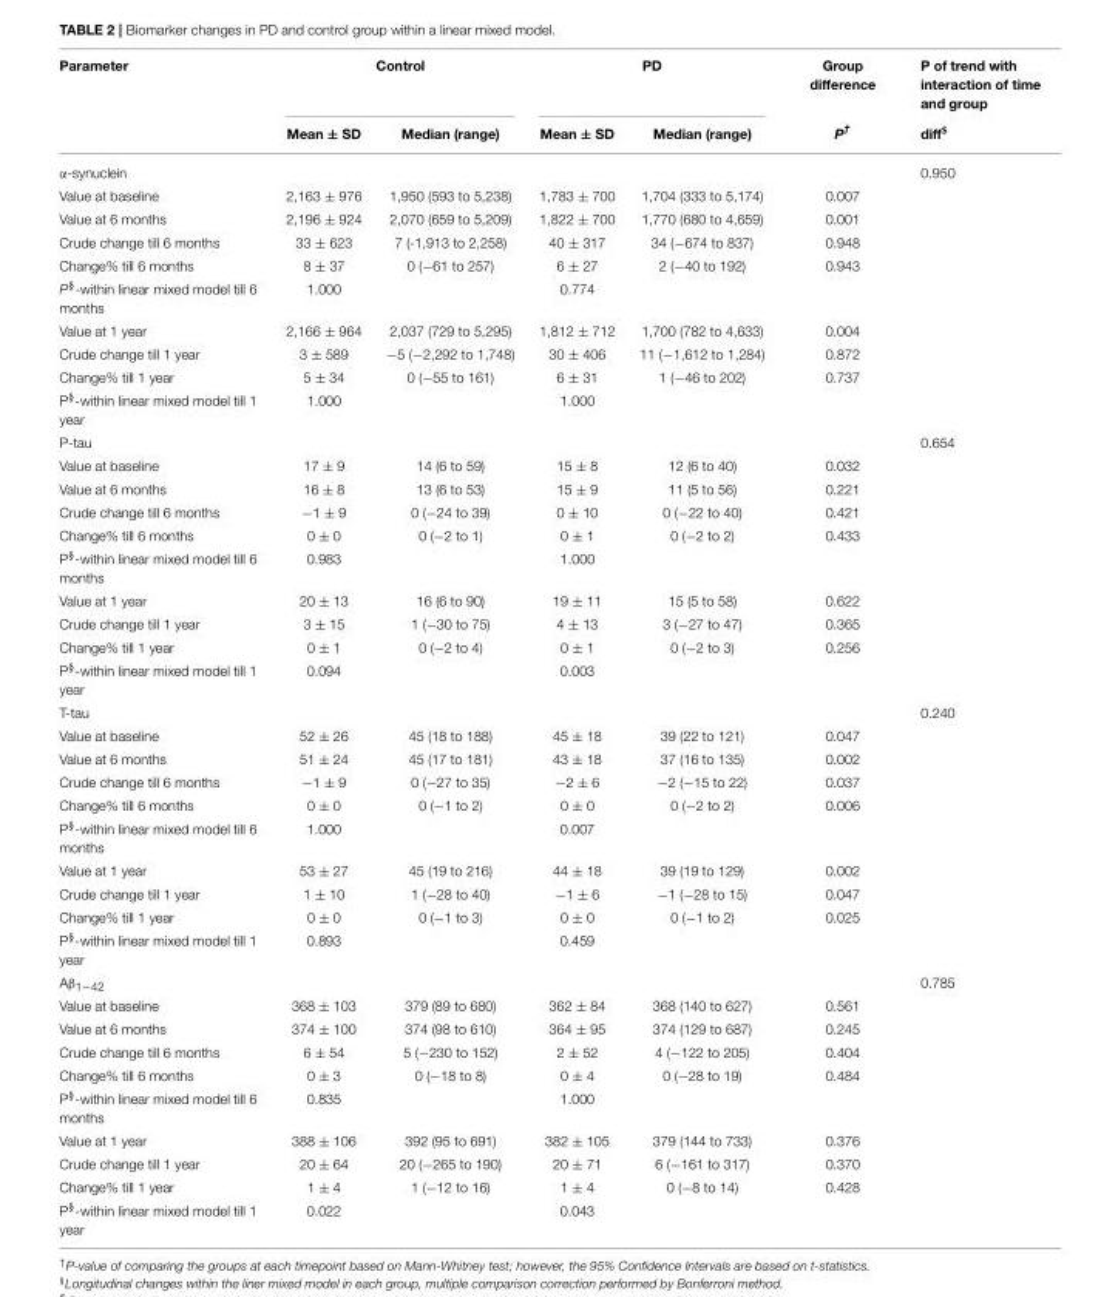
<table><thead><tr><td rowspan="2">Parameter</td><td colspan="2">Control</td><td colspan="2">PD</td><td rowspan="2">Group difference P<sup>†</sup></td><td rowspan="2">P of trend with interaction of time and group diff<sup>$</sup></td></tr><tr><td>Mean ± SD</td><td>Median (range)</td><td>Mean ± SD</td><td>Median (range)</td></tr></thead><tbody><tr><td>α-synuclein</td><td></td><td></td><td></td><td></td><td></td><td>0.950</td></tr><tr><td>Value at baseline</td><td>2,163 ± 976</td><td>1,950 (593 to 5,238)</td><td>1,783 ± 700</td><td>1,704 (333 to 5,174)</td><td>0.007</td><td></td></tr><tr><td>Value at 6 months</td><td>2,196 ± 924</td><td>2,070 (659 to 5,209)</td><td>1,822 ± 700</td><td>1,770 (680 to 4,659)</td><td>0.001</td><td></td></tr><tr><td>Crude change till 6 months</td><td>33 ± 623</td><td>7 (-1,913 to 2,258)</td><td>40 ± 317</td><td>34 (−674 to 837)</td><td>0.948</td><td></td></tr><tr><td>Change% till 6 months</td><td>8 ± 37</td><td>0 (−61 to 257)</td><td>6 ± 27</td><td>2 (−40 to 192)</td><td>0.943</td><td></td></tr><tr><td>P<sup>§</sup>-within linear mixed model till 6 months</td><td>1.000</td><td></td><td>0.774</td><td></td><td></td><td></td></tr><tr><td>Value at 1 year</td><td>2,166 ± 964</td><td>2,037 (729 to 5,295)</td><td>1,812 ± 712</td><td>1,700 (782 to 4,633)</td><td>0.004</td><td></td></tr><tr><td>Crude change till 1 year</td><td>3 ± 589</td><td>−5 (−2,292 to 1,748)</td><td>30 ± 406</td><td>11 (−1,612 to 1,284)</td><td>0.872</td><td></td></tr><tr><td>Change% till 1 year</td><td>5 ± 34</td><td>0 (−55 to 161)</td><td>6 ± 31</td><td>1 (−46 to 202)</td><td>0.737</td><td></td></tr><tr><td>P<sup>§</sup>-within linear mixed model till 1 year</td><td>1.000</td><td></td><td>1.000</td><td></td><td></td><td></td></tr><tr><td>P-tau</td><td></td><td></td><td></td><td></td><td></td><td>0.654</td></tr><tr><td>Value at baseline</td><td>17 ± 9</td><td>14 (6 to 59)</td><td>15 ± 8</td><td>12 (6 to 40)</td><td>0.032</td><td></td></tr><tr><td>Value at 6 months</td><td>16 ± 8</td><td>13 (6 to 53)</td><td>15 ± 9</td><td>11 (5 to 56)</td><td>0.221</td><td></td></tr><tr><td>Crude change till 6 months</td><td>−1 ± 9</td><td>0 (−24 to 39)</td><td>0 ± 10</td><td>0 (−22 to 40)</td><td>0.421</td><td></td></tr><tr><td>Change% till 6 months</td><td>0 ± 0</td><td>0 (−2 to 1)</td><td>0 ± 1</td><td>0 (−2 to 2)</td><td>0.433</td><td></td></tr><tr><td>P<sup>§</sup>-within linear mixed model till 6 months</td><td>0.983</td><td></td><td>1.000</td><td></td><td></td><td></td></tr><tr><td>Value at 1 year</td><td>20 ± 13</td><td>16 (6 to 90)</td><td>19 ± 11</td><td>15 (5 to 58)</td><td>0.622</td><td></td></tr><tr><td>Crude change till 1 year</td><td>3 ± 15</td><td>1 (−30 to 75)</td><td>4 ± 13</td><td>3 (−27 to 47)</td><td>0.365</td><td></td></tr><tr><td>Change% till 1 year</td><td>0 ± 1</td><td>0 (−2 to 4)</td><td>0 ± 1</td><td>0 (−2 to 3)</td><td>0.256</td><td></td></tr><tr><td>P<sup>§</sup>-within linear mixed model till 1 year</td><td>0.094</td><td></td><td>0.003</td><td></td><td></td><td></td></tr><tr><td>T-tau</td><td></td><td></td><td></td><td></td><td></td><td>0.240</td></tr><tr><td>Value at baseline</td><td>52 ± 26</td><td>45 (18 to 188)</td><td>45 ± 18</td><td>39 (22 to 121)</td><td>0.047</td><td></td></tr><tr><td>Value at 6 months</td><td>51 ± 24</td><td>45 (17 to 181)</td><td>43 ± 18</td><td>37 (16 to 135)</td><td>0.002</td><td></td></tr><tr><td>Crude change till 6 months</td><td>−1 ± 9</td><td>0 (−27 to 35)</td><td>−2 ± 6</td><td>−2 (−15 to 22)</td><td>0.037</td><td></td></tr><tr><td>Change% till 6 months</td><td>0 ± 0</td><td>0 (−1 to 2)</td><td>0 ± 0</td><td>0 (−2 to 2)</td><td>0.006</td><td></td></tr><tr><td>P<sup>§</sup>-within linear mixed model till 6 months</td><td>1.000</td><td></td><td>0.007</td><td></td><td></td><td></td></tr><tr><td>Value at 1 year</td><td>53 ± 27</td><td>45 (19 to 216)</td><td>44 ± 18</td><td>39 (19 to 129)</td><td>0.002</td><td></td></tr><tr><td>Crude change till 1 year</td><td>1 ± 10</td><td>1 (−28 to 40)</td><td>−1 ± 6</td><td>−1 (−28 to 15)</td><td>0.047</td><td></td></tr><tr><td>Change% till 1 year</td><td>0 ± 0</td><td>0 (−1 to 3)</td><td>0 ± 0</td><td>0 (−1 to 2)</td><td>0.025</td><td></td></tr><tr><td>P<sup>§</sup>-within linear mixed model till 1 year</td><td>0.893</td><td></td><td>0.459</td><td></td><td></td><td></td></tr><tr><td>Aβ<sub>1−42</sub></td><td></td><td></td><td></td><td></td><td></td><td>0.785</td></tr><tr><td>Value at baseline</td><td>368 ± 103</td><td>379 (89 to 680)</td><td>362 ± 84</td><td>368 (140 to 627)</td><td>0.561</td><td></td></tr><tr><td>Value at 6 months</td><td>374 ± 100</td><td>374 (98 to 610)</td><td>364 ± 95</td><td>374 (129 to 687)</td><td>0.245</td><td></td></tr><tr><td>Crude change till 6 months</td><td>6 ± 54</td><td>5 (−230 to 152)</td><td>2 ± 52</td><td>4 (−122 to 205)</td><td>0.404</td><td></td></tr><tr><td>Change% till 6 months</td><td>0 ± 3</td><td>0 (−18 to 8)</td><td>0 ± 4</td><td>0 (−28 to 19)</td><td>0.484</td><td></td></tr><tr><td>P<sup>§</sup>-within linear mixed model till 6 months</td><td>0.835</td><td></td><td>1.000</td><td></td><td></td><td></td></tr><tr><td>Value at 1 year</td><td>388 ± 106</td><td>392 (95 to 691)</td><td>382 ± 105</td><td>379 (144 to 733)</td><td>0.376</td><td></td></tr><tr><td>Crude change till 1 year</td><td>20 ± 64</td><td>20 (−265 to 190)</td><td>20 ± 71</td><td>6 (−161 to 317)</td><td>0.370</td><td></td></tr><tr><td>Change% till 1 year</td><td>1 ± 4</td><td>1 (−12 to 16)</td><td>1 ± 4</td><td>0 (−8 to 14)</td><td>0.428</td><td></td></tr><tr><td>P<sup>§</sup>-within linear mixed model till 1 year</td><td>0.022</td><td></td><td>0.043</td><td></td><td></td><td></td></tr></tbody></table>